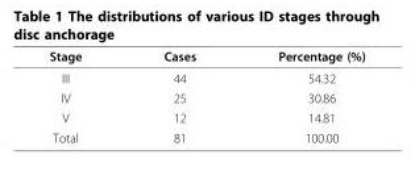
<table><thead><tr><td>Stage</td><td>Cases</td><td>Percentage (%)</td></tr></thead><tbody><tr><td>III</td><td>44</td><td>54.32</td></tr><tr><td>IV</td><td>25</td><td>30.86</td></tr><tr><td>V</td><td>12</td><td>14.81</td></tr><tr><td>Total</td><td>81</td><td>100.00</td></tr></tbody></table>